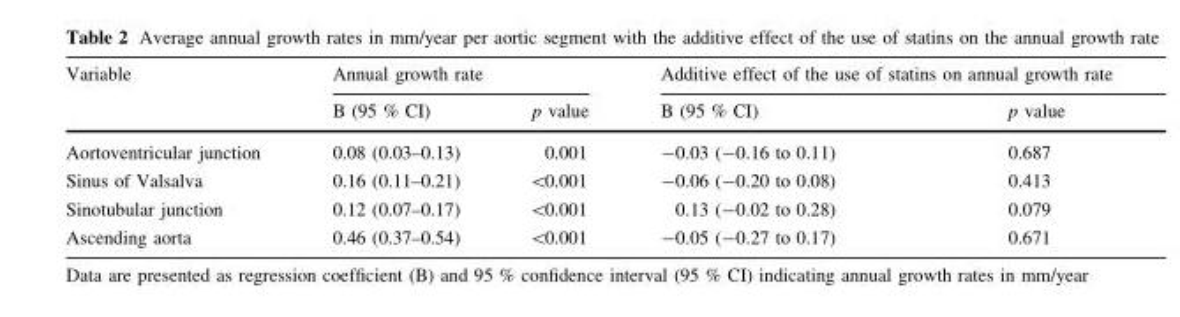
<table><thead><tr><td rowspan="2">Variable</td><td colspan="2">Annual growth rate</td><td colspan="2">Additive effect of the use of statins on annual growth rate</td></tr><tr><td>B (95 % CI)</td><td>p value</td><td>B (95 % CI)</td><td>p value</td></tr></thead><tbody><tr><td>Aortoventricular junction</td><td>0.08 (0.03–0.13)</td><td>0.001</td><td>-0.03 (-0.16 to 0.11)</td><td>0.687</td></tr><tr><td>Sinus of Valsalva</td><td>0.16 (0.11–0.21)</td><td>&lt;0.001</td><td>-0.06 (-0.20 to 0.08)</td><td>0.413</td></tr><tr><td>Sinotubular junction</td><td>0.12 (0.07–0.17)</td><td>&lt;0.001</td><td>0.13 (-0.02 to 0.28)</td><td>0.079</td></tr><tr><td>Ascending aorta</td><td>0.46 (0.37–0.54)</td><td>&lt;0.001</td><td>-0.05 (-0.27 to 0.17)</td><td>0.671</td></tr></tbody></table>